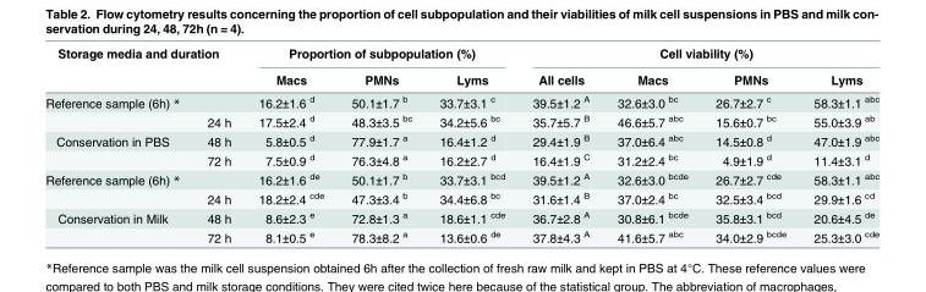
<table><thead><tr><td rowspan="2" colspan="2">Storage media and duration</td><td colspan="3">Proportion of subpopulation (%)</td><td colspan="4">Cell viability (%)</td></tr><tr><td rowspan="2">Macs 16.2±1.6 <sup>d</sup></td><td rowspan="2">PMNs 50.1±1.7 <sup>b</sup></td><td rowspan="2">Lyms 33.7±3.1 <sup>c</sup></td><td rowspan="2">All cells 39.5±1.2 <sup>A</sup></td><td rowspan="2">Macs 32.6±3.0 <sup>bc</sup></td><td rowspan="2">PMNs 26.7±2.7 <sup>c</sup></td><td rowspan="2">Lyms 58.3±1.1 <sup>abc</sup></td></tr><tr><td>Reference sample (6h) *</td><td></td></tr></thead><tbody><tr><td></td><td>24 h</td><td>17.5±2.4 <sup>d</sup></td><td>48.3±3.5 <sup>bc</sup></td><td>34.2±5.6 <sup>bc</sup></td><td>35.7±5.7 <sup>B</sup></td><td>46.6±5.7 <sup>abc</sup></td><td>15.6±0.7 <sup>bc</sup></td><td>55.0±3.9 <sup>ab</sup></td></tr><tr><td rowspan="2">Conservation in PBS</td><td>48 h</td><td>5.8±0.5 <sup>d</sup></td><td>77.9±1.7 <sup>a</sup></td><td>16.4±1.2 <sup>d</sup></td><td>29.4±1.9 <sup>B</sup></td><td>37.0±6.4 <sup>abc</sup></td><td>14.5±0.8 <sup>d</sup></td><td>47.0±1.9 <sup>abc</sup></td></tr><tr><td>72 h</td><td>7.5±0.9 <sup>d</sup></td><td>76.3±4.8 <sup>a</sup></td><td>16.2±2.7 <sup>d</sup></td><td>16.4±1.9 <sup>C</sup></td><td>31.2±2.4 <sup>bc</sup></td><td>4.9±1.9 <sup>d</sup></td><td>11.4±3.1 <sup>d</sup></td></tr><tr><td rowspan="2">Reference sample (6h) *</td><td></td><td>16.2±1.6 <sup>de</sup></td><td>50.1±1.7 <sup>b</sup></td><td>33.7±3.1 <sup>bcd</sup></td><td>39.5±1.2 <sup>A</sup></td><td>32.6±3.0 <sup>bcde</sup></td><td>26.7±2.7 <sup>cde</sup></td><td>58.3±1.1 <sup>abc</sup></td></tr><tr><td>24 h</td><td>18.2±2.4 <sup>cde</sup></td><td>47.3±3.4 <sup>b</sup></td><td>34.4±6.8 <sup>bc</sup></td><td>31.6±1.4 <sup>B</sup></td><td>37.0±2.4 <sup>bc</sup></td><td>32.5±3.4 <sup>bcd</sup></td><td>29.9±1.6 <sup>cd</sup></td></tr><tr><td rowspan="2">Conservation in Milk</td><td>48 h</td><td>8.6±2.3 <sup>e</sup></td><td>72.8±1.3 <sup>a</sup></td><td>18.6±1.1 <sup>cde</sup></td><td>36.7±2.8 <sup>A</sup></td><td>30.8±6.1 <sup>bcde</sup></td><td>35.8±3.1 <sup>bcd</sup></td><td>20.6±4.5 <sup>de</sup></td></tr><tr><td>72 h</td><td>8.1±0.5 <sup>e</sup></td><td>78.3±8.2 <sup>a</sup></td><td>13.6±0.6 <sup>de</sup></td><td>37.8±4.3 <sup>A</sup></td><td>41.6±5.7 <sup>abc</sup></td><td>34.0±2.9 <sup>bcde</sup></td><td>25.3±3.0 <sup>cde</sup></td></tr></tbody></table>